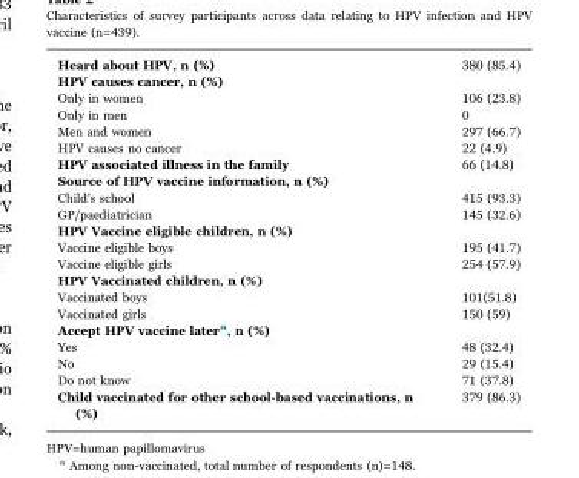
<table><tbody><tr><td>Heard about HPV, n (%)</td><td>380 (85.4)</td></tr><tr><td colspan="2">HPV causes cancer, n (%)</td></tr><tr><td>Only in women</td><td>106 (23.8)</td></tr><tr><td>Only in men</td><td>0</td></tr><tr><td>Men and women</td><td>297 (66.7)</td></tr><tr><td>HPV causes no cancer</td><td>22 (4.9)</td></tr><tr><td>HPV associated illness in the family</td><td>66 (14.8)</td></tr><tr><td colspan="2">Source of HPV vaccine information, n (%)</td></tr><tr><td>Child&#x27;s school</td><td>415 (93.3)</td></tr><tr><td>GP/paediatrician</td><td>145 (32.6)</td></tr><tr><td colspan="2">HPV Vaccine eligible children, n (%)</td></tr><tr><td>Vaccine eligible boys</td><td>195 (41.7)</td></tr><tr><td>Vaccine eligible girls</td><td>254 (57.9)</td></tr><tr><td colspan="2">HPV Vaccinated children, n (%)</td></tr><tr><td>Vaccinated boys</td><td>101(51.8)</td></tr><tr><td>Vaccinated girls</td><td>150 (59)</td></tr><tr><td colspan="2">Accept HPV vaccine later<sup>a</sup>, n (%)</td></tr><tr><td>Yes</td><td>48 (32.4)</td></tr><tr><td>No</td><td>29 (15.4)</td></tr><tr><td>Do not know</td><td>71 (37.8)</td></tr><tr><td>Child vaccinated for other school-based vaccinations, n (%)</td><td>379 (86.3)</td></tr></tbody></table>